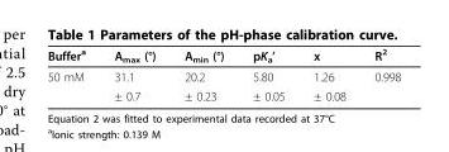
<table><thead><tr><td>Buffer<sup>a</sup></td><td>A<sub>max</sub> (°)</td><td>A<sub>min</sub> (°)</td><td>pK<sub>a</sub>’</td><td>x</td><td>R<sup>2</sup></td></tr></thead><tbody><tr><td rowspan="2">50 mM</td><td>31.1</td><td>20.2</td><td>5.80</td><td>1.26</td><td>0.998</td></tr><tr><td>± 0.7</td><td>± 0.23</td><td>± 0.05</td><td>± 0.08</td><td></td></tr></tbody></table>